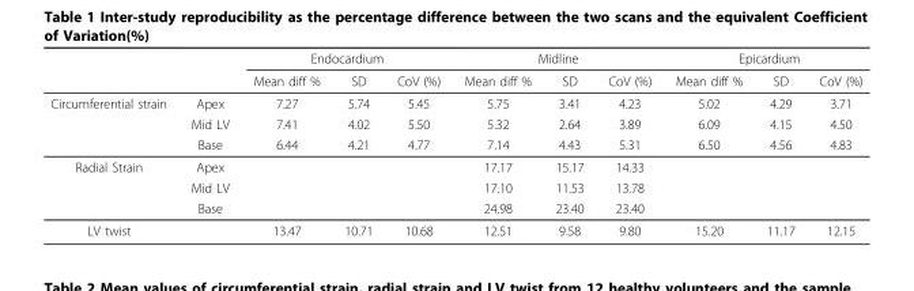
<table><thead><tr><td rowspan="2"></td><td rowspan="2"></td><td colspan="3">Endocardium</td><td colspan="3">Midline</td><td colspan="3">Epicardium</td></tr><tr><td>Mean diff %</td><td>SD</td><td>CoV (%)</td><td>Mean diff %</td><td>SD</td><td>CoV (%)</td><td>Mean diff %</td><td>SD</td><td>CoV (%)</td></tr></thead><tbody><tr><td rowspan="3">Circumferential strain</td><td>Apex</td><td>7.27</td><td>5.74</td><td>5.45</td><td>5.75</td><td>3.41</td><td>4.23</td><td>5.02</td><td>4.29</td><td>3.71</td></tr><tr><td>Mid LV</td><td>7.41</td><td>4.02</td><td>5.50</td><td>5.32</td><td>2.64</td><td>3.89</td><td>6.09</td><td>4.15</td><td>4.50</td></tr><tr><td>Base</td><td>6.44</td><td>4.21</td><td>4.77</td><td>7.14</td><td>4.43</td><td>5.31</td><td>6.50</td><td>4.56</td><td>4.83</td></tr><tr><td rowspan="3">Radial Strain</td><td>Apex</td><td></td><td></td><td></td><td>17.17</td><td>15.17</td><td>14.33</td><td></td><td></td><td></td></tr><tr><td>Mid LV</td><td></td><td></td><td></td><td>17.10</td><td>11.53</td><td>13.78</td><td></td><td></td><td></td></tr><tr><td>Base</td><td></td><td></td><td></td><td>24.98</td><td>23.40</td><td>23.40</td><td></td><td></td><td></td></tr><tr><td>LV twist</td><td></td><td>13.47</td><td>10.71</td><td>10.68</td><td>12.51</td><td>9.58</td><td>9.80</td><td>15.20</td><td>11.17</td><td>12.15</td></tr></tbody></table>